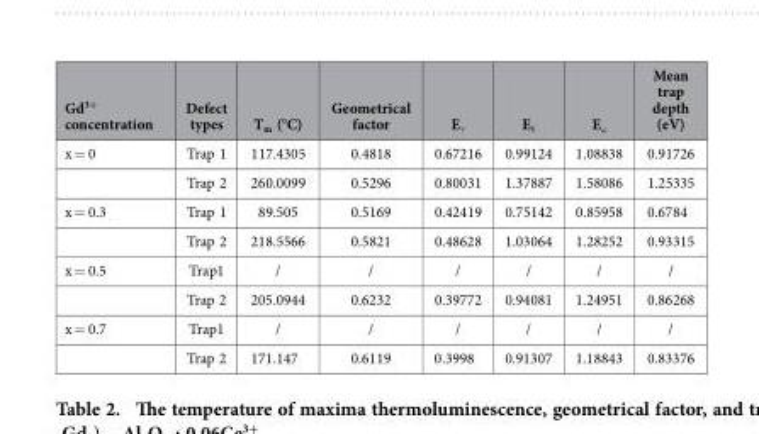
<table><thead><tr><td>Gd<sup>3+</sup> concentration</td><td>Defect types</td><td>T<sub>m</sub> (°C)</td><td>Geometrical factor</td><td>E<sub>τ</sub></td><td>E<sub>δ</sub></td><td>E<sub>ω</sub></td><td>Mean trap depth (eV)</td></tr></thead><tbody><tr><td rowspan="2">x = 0</td><td>Trap 1</td><td>117.4305</td><td>0.4818</td><td>0.67216</td><td>0.99124</td><td>1.08838</td><td>0.91726</td></tr><tr><td>Trap 2</td><td>260.0099</td><td>0.5296</td><td>0.80031</td><td>1.37887</td><td>1.58086</td><td>1.25335</td></tr><tr><td rowspan="2">x = 0.3</td><td>Trap 1</td><td>89.505</td><td>0.5169</td><td>0.42419</td><td>0.75142</td><td>0.85958</td><td>0.6784</td></tr><tr><td>Trap 2</td><td>218.5566</td><td>0.5821</td><td>0.48628</td><td>1.03064</td><td>1.28252</td><td>0.93315</td></tr><tr><td rowspan="2">x = 0.5</td><td>Trap1</td><td>/</td><td>/</td><td>/</td><td>/</td><td>/</td><td>/</td></tr><tr><td>Trap 2</td><td>205.0944</td><td>0.6232</td><td>0.39772</td><td>0.94081</td><td>1.24951</td><td>0.86268</td></tr><tr><td rowspan="2">x = 0.7</td><td>Trap1</td><td>/</td><td>/</td><td>/</td><td>/</td><td>/</td><td>/</td></tr><tr><td>Trap 2</td><td>171.147</td><td>0.6119</td><td>0.3998</td><td>0.91307</td><td>1.18843</td><td>0.83376</td></tr></tbody></table>